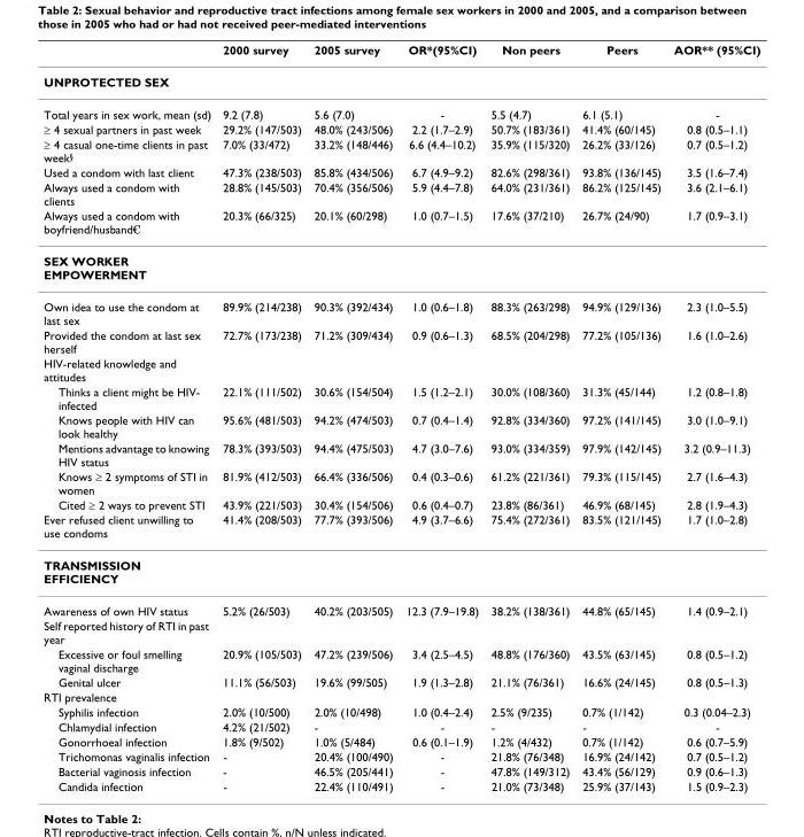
<table><thead><tr><td></td><td>2000 survey</td><td>2005 survey</td><td>OR*(95%CI)</td><td>Non peers</td><td>Peers</td><td>AOR** (95%CI)</td></tr></thead><tbody><tr><td colspan="7">UNPROTECTED SEX</td></tr><tr><td>Total years in sex work, mean (sd)</td><td>9.2 (7.8)</td><td>5.6 (7.0)</td><td>-</td><td>5.5 (4.7)</td><td>6.1 (5.1)</td><td>-</td></tr><tr><td>≥ 4 sexual partners in past week</td><td>29.2% (147/503)</td><td>48.0% (243/506)</td><td>2.2 (1.7–2.9)</td><td>50.7% (183/361)</td><td>41.4% (60/145)</td><td>0.8 (0.5–1.1)</td></tr><tr><td>≥ 4 casual one-time clients in past week<sup>§</sup></td><td>7.0% (33/472)</td><td>33.2% (148/446)</td><td>6.6 (4.4–10.2)</td><td>35.9% (115/320)</td><td>26.2% (33/126)</td><td>0.7 (0.5–1.2)</td></tr><tr><td>Used a condom with last client</td><td>47.3% (238/503)</td><td>85.8% (434/506)</td><td>6.7 (4.9–9.2)</td><td>82.6% (298/361)</td><td>93.8% (136/145)</td><td>3.5 (1.6–7.4)</td></tr><tr><td>Always used a condom with clients</td><td>28.8% (145/503)</td><td>70.4% (356/506)</td><td>5.9 (4.4–7.8)</td><td>64.0% (231/361)</td><td>86.2% (125/145)</td><td>3.6 (2.1–6.1)</td></tr><tr><td>Always used a condom with boyfriend/husband<sup>€</sup></td><td>20.3% (66/325)</td><td>20.1% (60/298)</td><td>1.0 (0.7–1.5)</td><td>17.6% (37/210)</td><td>26.7% (24/90)</td><td>1.7 (0.9–3.1)</td></tr><tr><td colspan="7">SEX WORKER EMPOWERMENT</td></tr><tr><td>Own idea to use the condom at last sex</td><td>89.9% (214/238)</td><td>90.3% (392/434)</td><td>1.0 (0.6–1.8)</td><td>88.3% (263/298)</td><td>94.9% (129/136)</td><td>2.3 (1.0–5.5)</td></tr><tr><td>Provided the condom at last sex herself</td><td>72.7% (173/238)</td><td>71.2% (309/434)</td><td>0.9 (0.6–1.3)</td><td>68.5% (204/298)</td><td>77.2% (105/136)</td><td>1.6 (1.0–2.6)</td></tr><tr><td colspan="7">HIV-related knowledge and attitudes</td></tr><tr><td>Thinks a client might be HIV- infected</td><td>22.1% (111/502)</td><td>30.6% (154/504)</td><td>1.5 (1.2–2.1)</td><td>30.0% (108/360)</td><td>31.3% (45/144)</td><td>1.2 (0.8–1.8)</td></tr><tr><td>Knows people with HIV can look healthy</td><td>95.6% (481/503)</td><td>94.2% (474/503)</td><td>0.7 (0.4–1.4)</td><td>92.8% (334/360)</td><td>97.2% (141/145)</td><td>3.0 (1.0–9.1)</td></tr><tr><td>Mentions advantage to knowing HIV status</td><td>78.3% (393/503)</td><td>94.4% (475/503)</td><td>4.7 (3.0–7.6)</td><td>93.0% (334/359)</td><td>97.9% (142/145)</td><td>3.2 (0.9–11.3)</td></tr><tr><td>Knows ≥ 2 symptoms of STI in women</td><td>81.9% (412/503)</td><td>66.4% (336/506)</td><td>0.4 (0.3–0.6)</td><td>61.2% (221/361)</td><td>79.3% (115/145)</td><td>2.7 (1.6–4.3)</td></tr><tr><td>Cited ≥ 2 ways to prevent STI</td><td>43.9% (221/503)</td><td>30.4% (154/506)</td><td>0.6 (0.4–0.7)</td><td>23.8% (86/361)</td><td>46.9% (68/145)</td><td>2.8 (1.9–4.3)</td></tr><tr><td>Ever refused client unwilling to use condoms</td><td>41.4% (208/503)</td><td>77.7% (393/506)</td><td>4.9 (3.7–6.6)</td><td>75.4% (272/361)</td><td>83.5% (121/145)</td><td>1.7 (1.0–2.8)</td></tr><tr><td colspan="7">TRANSMISSION EFFICIENCY</td></tr><tr><td>Awareness of own HIV status</td><td>5.2% (26/503)</td><td>40.2% (203/505)</td><td>12.3 (7.9–19.8)</td><td>38.2% (138/361)</td><td>44.8% (65/145)</td><td>1.4 (0.9–2.1)</td></tr><tr><td colspan="7">Self reported history of RTI in past year</td></tr><tr><td>Excessive or foul smelling vaginal discharge</td><td>20.9% (105/503)</td><td>47.2% (239/506)</td><td>3.4 (2.5–4.5)</td><td>48.8% (176/360)</td><td>43.5% (63/145)</td><td>0.8 (0.5–1.2)</td></tr><tr><td>Genital ulcer</td><td>11.1% (56/503)</td><td>19.6% (99/505)</td><td>1.9 (1.3–2.8)</td><td>21.1% (76/361)</td><td>16.6% (24/145)</td><td>0.8 (0.5–1.3)</td></tr><tr><td colspan="7">RTI prevalence</td></tr><tr><td>Syphilis infection</td><td>2.0% (10/500)</td><td>2.0% (10/498)</td><td>1.0 (0.4–2.4)</td><td>2.5% (9/235)</td><td>0.7% (1/142)</td><td>0.3 (0.04–2.3)</td></tr><tr><td>Chlamydial infection</td><td>4.2% (21/502)</td><td>-</td><td>-</td><td>-</td><td>-</td><td>-</td></tr><tr><td>Gonorrhoeal infection</td><td>1.8% (9/502)</td><td>1.0% (5/484)</td><td>0.6 (0.1–1.9)</td><td>1.2% (4/432)</td><td>0.7% (1/142)</td><td>0.6 (0.7–5.9)</td></tr><tr><td>Trichomonas vaginalis infection</td><td>-</td><td>20.4% (100/490)</td><td>-</td><td>21.8% (76/348)</td><td>16.9% (24/142)</td><td>0.7 (0.5–1.2)</td></tr><tr><td>Bacterial vaginosis infection</td><td>-</td><td>46.5% (205/441)</td><td>-</td><td>47.8% (149/312)</td><td>43.4% (56/129)</td><td>0.9 (0.6–1.3)</td></tr><tr><td>Candida infection</td><td>-</td><td>22.4% (110/491)</td><td>-</td><td>21.0% (73/348)</td><td>25.9% (37/143)</td><td>1.5 (0.9–2.3)</td></tr></tbody></table>